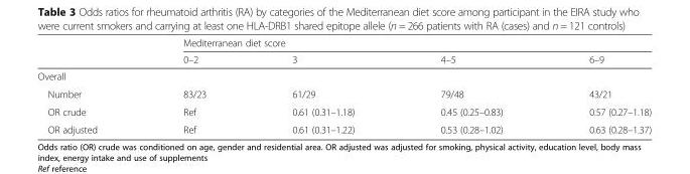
<table><thead><tr><td rowspan="2"></td><td colspan="4">Mediterranean diet score</td></tr><tr><td>0–2</td><td>3</td><td>4–5</td><td>6–9</td></tr></thead><tbody><tr><td colspan="5">Overall</td></tr><tr><td>Number</td><td>83/23</td><td>61/29</td><td>79/48</td><td>43/21</td></tr><tr><td>OR crude</td><td>Ref</td><td>0.61 (0.31–1.18)</td><td>0.45 (0.25–0.83)</td><td>0.57 (0.27–1.18)</td></tr><tr><td>OR adjusted</td><td>Ref</td><td>0.61 (0.31–1.22)</td><td>0.53 (0.28–1.02)</td><td>0.63 (0.28–1.37)</td></tr></tbody></table>